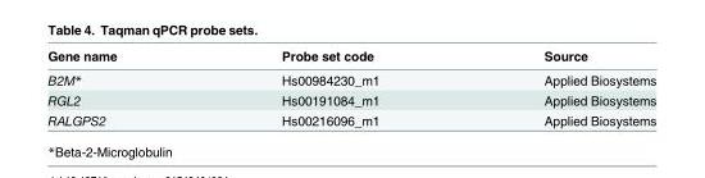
<table><thead><tr><td>Gene name</td><td>Probe set code</td><td>Source</td></tr></thead><tbody><tr><td>B2M*</td><td>Hs00984230_m1</td><td>Applied Biosystems</td></tr><tr><td>RGL2</td><td>Hs00191084_m1</td><td>Applied Biosystems</td></tr><tr><td>RALGPS2</td><td>Hs00216096_m1</td><td>Applied Biosystems</td></tr></tbody></table>